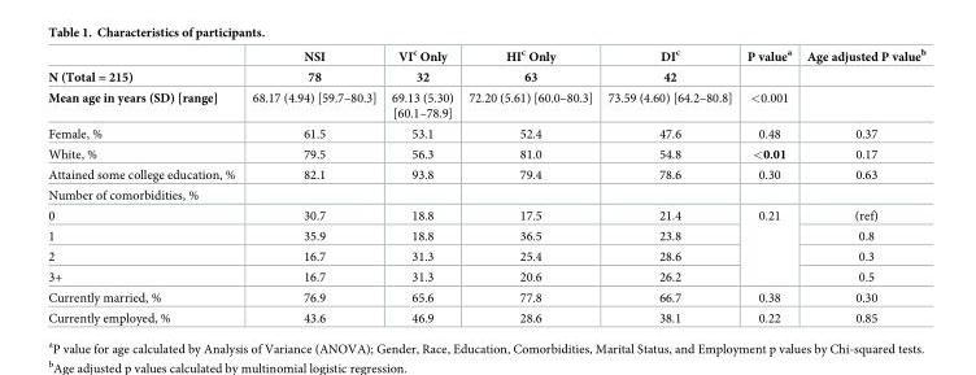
<table><thead><tr><td rowspan="2">N (Total = 215)</td><td rowspan="2">NSI 78</td><td rowspan="2">VI<sup>c</sup> Only 32</td><td rowspan="2">HI<sup>c</sup> Only 63</td><td rowspan="2">DI<sup>c</sup> 42</td><td rowspan="2">P value<sup>a</sup></td><td rowspan="2">Age adjusted P value<sup>b</sup></td></tr><tr></tr></thead><tbody><tr><td>Mean age in years (SD) [range]</td><td>68.17 (4.94) [59.7–80.3]</td><td>69.13 (5.30) [60.1–78.9]</td><td>72.20 (5.61) [60.0–80.3]</td><td>73.59 (4.60) [64.2–80.8]</td><td>&lt;0.001</td><td></td></tr><tr><td>Female, %</td><td>61.5</td><td>53.1</td><td>52.4</td><td>47.6</td><td>0.48</td><td>0.37</td></tr><tr><td>White, %</td><td>79.5</td><td>56.3</td><td>81.0</td><td>54.8</td><td>&lt;0.01</td><td>0.17</td></tr><tr><td>Attained some college education, %</td><td>82.1</td><td>93.8</td><td>79.4</td><td>78.6</td><td>0.30</td><td>0.63</td></tr><tr><td colspan="7">Number of comorbidities, %</td></tr><tr><td>0</td><td>30.7</td><td>18.8</td><td>17.5</td><td>21.4</td><td rowspan="4">0.21</td><td>(ref)</td></tr><tr><td>1</td><td>35.9</td><td>18.8</td><td>36.5</td><td>23.8</td><td>0.8</td></tr><tr><td>2</td><td>16.7</td><td>31.3</td><td>25.4</td><td>28.6</td><td>0.3</td></tr><tr><td>3+</td><td>16.7</td><td>31.3</td><td>20.6</td><td>26.2</td><td>0.5</td></tr><tr><td>Currently married, %</td><td>76.9</td><td>65.6</td><td>77.8</td><td>66.7</td><td>0.38</td><td>0.30</td></tr><tr><td>Currently employed, %</td><td>43.6</td><td>46.9</td><td>28.6</td><td>38.1</td><td>0.22</td><td>0.85</td></tr></tbody></table>